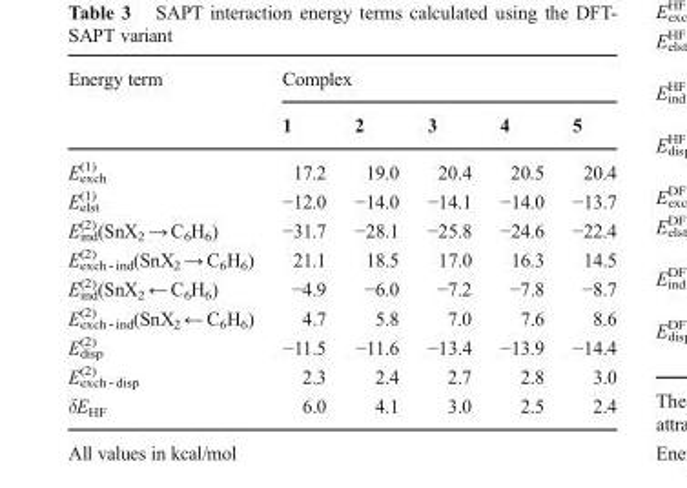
<table><thead><tr><td rowspan="2">Energy term</td><td colspan="5">Complex</td></tr><tr><td>1</td><td>2</td><td>3</td><td>4</td><td>5</td></tr></thead><tbody><tr><td>E<sub>exch</sub> <sup>(1)</sup></td><td>17.2</td><td>19.0</td><td>20.4</td><td>20.5</td><td>20.4</td></tr><tr><td>E<sub>elst</sub> <sup>(1)</sup></td><td>−12.0</td><td>−14.0</td><td>−14.1</td><td>−14.0</td><td>−13.7</td></tr><tr><td>E<sub>ind</sub> <sup>(2)</sup>(SnX<sub>2</sub> → C<sub>6</sub>H<sub>6</sub>)</td><td>−31.7</td><td>−28.1</td><td>−25.8</td><td>−24.6</td><td>−22.4</td></tr><tr><td>E<sub>exch ‐ ind</sub> <sup>(2)</sup> (SnX<sub>2</sub> → C<sub>6</sub>H<sub>6</sub>)</td><td>21.1</td><td>18.5</td><td>17.0</td><td>16.3</td><td>14.5</td></tr><tr><td>E<sub>ind</sub> <sup>(2)</sup>(SnX<sub>2</sub> ← C<sub>6</sub>H<sub>6</sub>)</td><td>−4.9</td><td>−6.0</td><td>−7.2</td><td>−7.8</td><td>−8.7</td></tr><tr><td>E<sub>exch ‐ ind</sub> <sup>(2)</sup> (SnX<sub>2</sub> ← C<sub>6</sub>H<sub>6</sub>)</td><td>4.7</td><td>5.8</td><td>7.0</td><td>7.6</td><td>8.6</td></tr><tr><td>E<sub>disp</sub> <sup>(2)</sup></td><td>−11.5</td><td>−11.6</td><td>−13.4</td><td>−13.9</td><td>−14.4</td></tr><tr><td>E<sub>exch ‐ disp</sub> <sup>(2)</sup></td><td>2.3</td><td>2.4</td><td>2.7</td><td>2.8</td><td>3.0</td></tr><tr><td>δE<sub>HF</sub></td><td>6.0</td><td>4.1</td><td>3.0</td><td>2.5</td><td>2.4</td></tr></tbody></table>